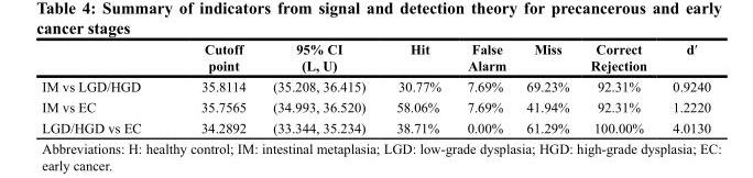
<table><thead><tr><td></td><td>Cutoff point</td><td>95% CI (L, U)</td><td>Hit</td><td>False Alarm</td><td>Miss</td><td>Correct Rejection</td><td>dʹ</td></tr></thead><tbody><tr><td>IM vs LGD/HGD</td><td>35.8114</td><td>(35.208, 36.415)</td><td>30.77%</td><td>7.69%</td><td>69.23%</td><td>92.31%</td><td>0.9240</td></tr><tr><td>IM vs EC</td><td>35.7565</td><td>(34.993, 36.520)</td><td>58.06%</td><td>7.69%</td><td>41.94%</td><td>92.31%</td><td>1.2220</td></tr><tr><td>LGD/HGD vs EC</td><td>34.2892</td><td>(33.344, 35.234)</td><td>38.71%</td><td>0.00%</td><td>61.29%</td><td>100.00%</td><td>4.0130</td></tr></tbody></table>